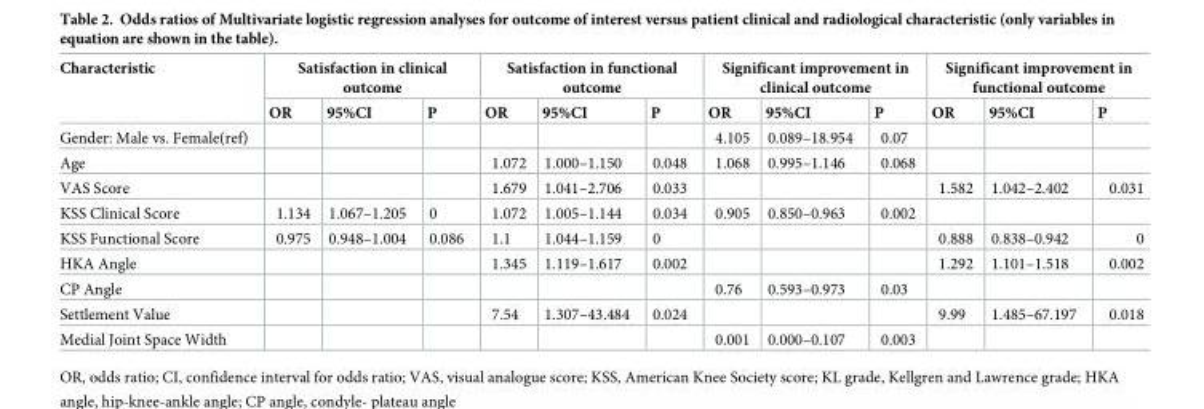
<table><thead><tr><td rowspan="2">Characteristic</td><td colspan="3">Satisfaction in clinical outcome</td><td colspan="3">Satisfaction in functional outcome</td><td colspan="3">Significant improvement in clinical outcome</td><td colspan="3">Significant improvement in functional outcome</td></tr><tr><td>OR</td><td>95%CI</td><td>P</td><td>OR</td><td>95%CI</td><td>P</td><td>OR</td><td>95%CI</td><td>P</td><td>OR</td><td>95%CI</td><td>P</td></tr></thead><tbody><tr><td>Gender: Male vs. Female(ref)</td><td></td><td></td><td></td><td></td><td></td><td></td><td>4.105</td><td>0.089–18.954</td><td>0.07</td><td></td><td></td><td></td></tr><tr><td>Age</td><td></td><td></td><td></td><td>1.072</td><td>1.000–1.150</td><td>0.048</td><td>1.068</td><td>0.995–1.146</td><td>0.068</td><td></td><td></td><td></td></tr><tr><td>VAS Score</td><td></td><td></td><td></td><td>1.679</td><td>1.041–2.706</td><td>0.033</td><td></td><td></td><td></td><td>1.582</td><td>1.042–2.402</td><td>0.031</td></tr><tr><td>KSS Clinical Score</td><td>1.134</td><td>1.067–1.205</td><td>0</td><td>1.072</td><td>1.005–1.144</td><td>0.034</td><td>0.905</td><td>0.850–0.963</td><td>0.002</td><td></td><td></td><td></td></tr><tr><td>KSS Functional Score</td><td>0.975</td><td>0.948–1.004</td><td>0.086</td><td>1.1</td><td>1.044–1.159</td><td>0</td><td></td><td></td><td></td><td>0.888</td><td>0.838–0.942</td><td>0</td></tr><tr><td>HKA Angle</td><td></td><td></td><td></td><td>1.345</td><td>1.119–1.617</td><td>0.002</td><td></td><td></td><td></td><td>1.292</td><td>1.101–1.518</td><td>0.002</td></tr><tr><td>CP Angle</td><td></td><td></td><td></td><td></td><td></td><td></td><td>0.76</td><td>0.593–0.973</td><td>0.03</td><td></td><td></td><td></td></tr><tr><td>Settlement Value</td><td></td><td></td><td></td><td>7.54</td><td>1.307–43.484</td><td>0.024</td><td></td><td></td><td></td><td>9.99</td><td>1.485–67.197</td><td>0.018</td></tr><tr><td>Medial Joint Space Width</td><td></td><td></td><td></td><td></td><td></td><td></td><td>0.001</td><td>0.000–0.107</td><td>0.003</td><td></td><td></td><td></td></tr></tbody></table>